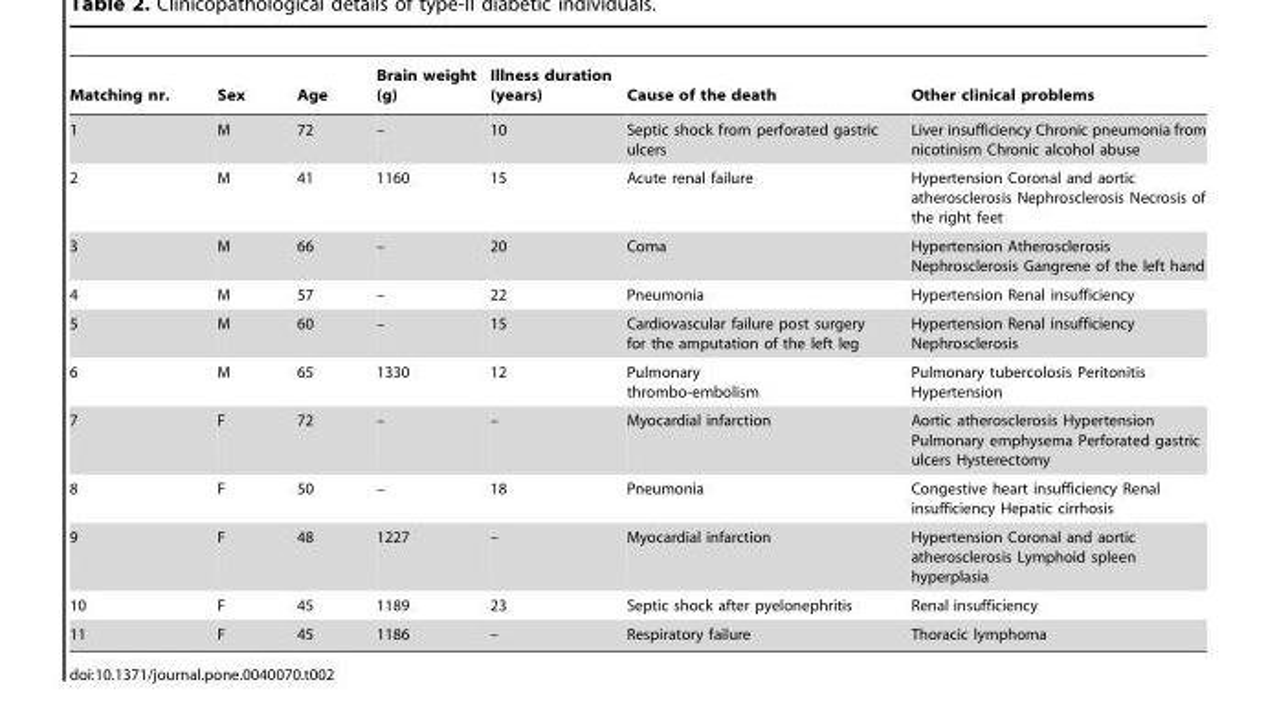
<table><thead><tr><td>Matching nr.</td><td>Sex</td><td>Age</td><td>Brain weight (g)</td><td>Illness duration (years)</td><td>Cause of the death</td><td>Other clinical problems</td></tr></thead><tbody><tr><td>1</td><td>M</td><td>72</td><td>–</td><td>10</td><td>Septic shock from perforated gastric ulcers</td><td>Liver insufficiency Chronic pneumonia from nicotinism Chronic alcohol abuse</td></tr><tr><td>2</td><td>M</td><td>41</td><td>1160</td><td>15</td><td>Acute renal failure</td><td>Hypertension Coronal and aortic atherosclerosis Nephrosclerosis Necrosis of the right feet</td></tr><tr><td>3</td><td>M</td><td>66</td><td>–</td><td>20</td><td>Coma</td><td>Hypertension Atherosclerosis Nephrosclerosis Gangrene of the left hand</td></tr><tr><td>4</td><td>M</td><td>57</td><td>–</td><td>22</td><td>Pneumonia</td><td>Hypertension Renal insufficiency</td></tr><tr><td>5</td><td>M</td><td>60</td><td>–</td><td>15</td><td>Cardiovascular failure post surgery for the amputation of the left leg</td><td>Hypertension Renal insufficiency Nephrosclerosis</td></tr><tr><td>6</td><td>M</td><td>65</td><td>1330</td><td>12</td><td>Pulmonary thrombo-embolism</td><td>Pulmonary tubercolosis Peritonitis Hypertension</td></tr><tr><td>7</td><td>F</td><td>72</td><td>–</td><td>–</td><td>Myocardial infarction</td><td>Aortic atherosclerosis Hypertension Pulmonary emphysema Perforated gastric ulcers Hysterectomy</td></tr><tr><td>8</td><td>F</td><td>50</td><td>–</td><td>18</td><td>Pneumonia</td><td>Congestive heart insufficiency Renal insufficiency Hepatic cirrhosis</td></tr><tr><td>9</td><td>F</td><td>48</td><td>1227</td><td>–</td><td>Myocardial infarction</td><td>Hypertension Coronal and aortic atherosclerosis Lymphoid spleen hyperplasia</td></tr><tr><td>10</td><td>F</td><td>45</td><td>1189</td><td>23</td><td>Septic shock after pyelonephritis</td><td>Renal insufficiency</td></tr><tr><td>11</td><td>F</td><td>45</td><td>1186</td><td>–</td><td>Respiratory failure</td><td>Thoracic lymphoma</td></tr></tbody></table>